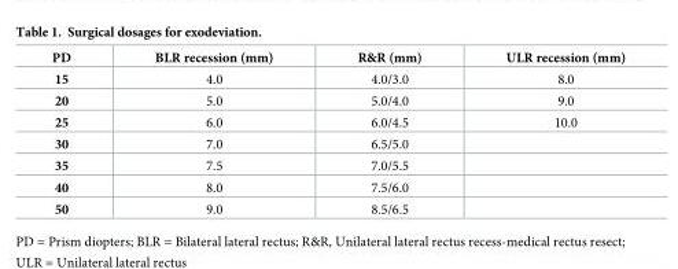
<table><thead><tr><td>PD</td><td>BLR recession (mm)</td><td>R&amp;R (mm)</td><td>ULR recession (mm)</td></tr></thead><tbody><tr><td>15</td><td>4.0</td><td>4.0/3.0</td><td>8.0</td></tr><tr><td>20</td><td>5.0</td><td>5.0/4.0</td><td>9.0</td></tr><tr><td>25</td><td>6.0</td><td>6.0/4.5</td><td>10.0</td></tr><tr><td>30</td><td>7.0</td><td>6.5/5.0</td><td></td></tr><tr><td>35</td><td>7.5</td><td>7.0/5.5</td><td></td></tr><tr><td>40</td><td>8.0</td><td>7.5/6.0</td><td></td></tr><tr><td>50</td><td>9.0</td><td>8.5/6.5</td><td></td></tr></tbody></table>